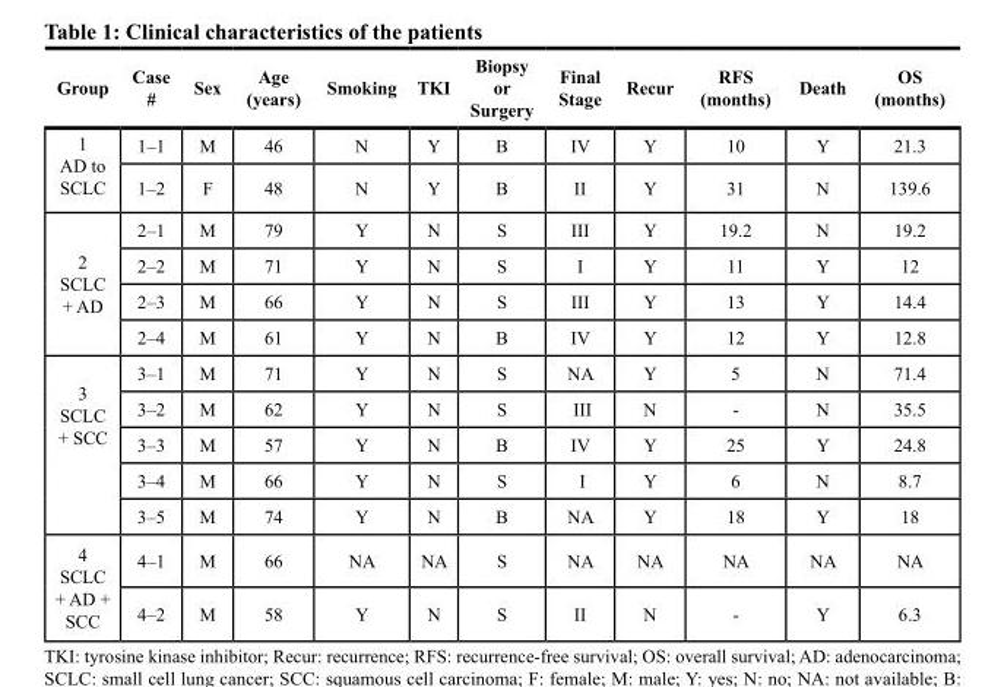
<table><thead><tr><td>Group</td><td>Case #</td><td>Sex</td><td>Age (years)</td><td>Smoking</td><td>TKI</td><td>Biopsy or Surgery</td><td>Final Stage</td><td>Recur</td><td>RFS (months)</td><td>Death</td><td>OS (months)</td></tr></thead><tbody><tr><td rowspan="2">1 AD to SCLC</td><td>1–1</td><td>M</td><td>46</td><td>N</td><td>Y</td><td>B</td><td>IV</td><td>Y</td><td>10</td><td>Y</td><td>21.3</td></tr><tr><td>1–2</td><td>F</td><td>48</td><td>N</td><td>Y</td><td>B</td><td>II</td><td>Y</td><td>31</td><td>N</td><td>139.6</td></tr><tr><td rowspan="4">2 SCLC + AD</td><td>2–1</td><td>M</td><td>79</td><td>Y</td><td>N</td><td>S</td><td>III</td><td>Y</td><td>19.2</td><td>N</td><td>19.2</td></tr><tr><td>2–2</td><td>M</td><td>71</td><td>Y</td><td>N</td><td>S</td><td>I</td><td>Y</td><td>11</td><td>Y</td><td>12</td></tr><tr><td>2–3</td><td>M</td><td>66</td><td>Y</td><td>N</td><td>S</td><td>III</td><td>Y</td><td>13</td><td>Y</td><td>14.4</td></tr><tr><td>2–4</td><td>M</td><td>61</td><td>Y</td><td>N</td><td>B</td><td>IV</td><td>Y</td><td>12</td><td>Y</td><td>12.8</td></tr><tr><td rowspan="5">3 SCLC + SCC</td><td>3–1</td><td>M</td><td>71</td><td>Y</td><td>N</td><td>S</td><td>NA</td><td>Y</td><td>5</td><td>N</td><td>71.4</td></tr><tr><td>3–2</td><td>M</td><td>62</td><td>Y</td><td>N</td><td>S</td><td>III</td><td>N</td><td>-</td><td>N</td><td>35.5</td></tr><tr><td>3–3</td><td>M</td><td>57</td><td>Y</td><td>N</td><td>B</td><td>IV</td><td>Y</td><td>25</td><td>Y</td><td>24.8</td></tr><tr><td>3–4</td><td>M</td><td>66</td><td>Y</td><td>N</td><td>S</td><td>I</td><td>Y</td><td>6</td><td>N</td><td>8.7</td></tr><tr><td>3–5</td><td>M</td><td>74</td><td>Y</td><td>N</td><td>B</td><td>NA</td><td>Y</td><td>18</td><td>Y</td><td>18</td></tr><tr><td rowspan="2">4 SCLC + AD + SCC</td><td>4–1</td><td>M</td><td>66</td><td>NA</td><td>NA</td><td>S</td><td>NA</td><td>NA</td><td>NA</td><td>NA</td><td>NA</td></tr><tr><td>4–2</td><td>M</td><td>58</td><td>Y</td><td>N</td><td>S</td><td>II</td><td>N</td><td>-</td><td>Y</td><td>6.3</td></tr></tbody></table>